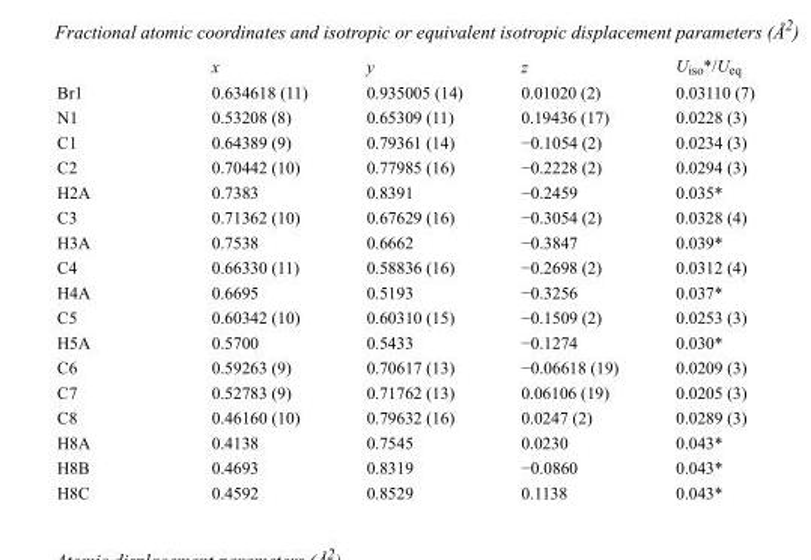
<table><thead><tr><td></td><td>x</td><td>y</td><td>z</td><td>U<sub>iso</sub>*/U<sub>eq</sub></td></tr></thead><tbody><tr><td>Br1</td><td>0.634618 (11)</td><td>0.935005 (14)</td><td>0.01020 (2)</td><td>0.03110 (7)</td></tr><tr><td>N1</td><td>0.53208 (8)</td><td>0.65309 (11)</td><td>0.19436 (17)</td><td>0.0228 (3)</td></tr><tr><td>C1</td><td>0.64389 (9)</td><td>0.79361 (14)</td><td>−0.1054 (2)</td><td>0.0234 (3)</td></tr><tr><td>C2</td><td>0.70442 (10)</td><td>0.77985 (16)</td><td>−0.2228 (2)</td><td>0.0294 (3)</td></tr><tr><td>H2A</td><td>0.7383</td><td>0.8391</td><td>−0.2459</td><td>0.035*</td></tr><tr><td>C3</td><td>0.71362 (10)</td><td>0.67629 (16)</td><td>−0.3054 (2)</td><td>0.0328 (4)</td></tr><tr><td>H3A</td><td>0.7538</td><td>0.6662</td><td>−0.3847</td><td>0.039*</td></tr><tr><td>C4</td><td>0.66330 (11)</td><td>0.58836 (16)</td><td>−0.2698 (2)</td><td>0.0312 (4)</td></tr><tr><td>H4A</td><td>0.6695</td><td>0.5193</td><td>−0.3256</td><td>0.037*</td></tr><tr><td>C5</td><td>0.60342 (10)</td><td>0.60310 (15)</td><td>−0.1509 (2)</td><td>0.0253 (3)</td></tr><tr><td>H5A</td><td>0.5700</td><td>0.5433</td><td>−0.1274</td><td>0.030*</td></tr><tr><td>C6</td><td>0.59263 (9)</td><td>0.70617 (13)</td><td>−0.06618 (19)</td><td>0.0209 (3)</td></tr><tr><td>C7</td><td>0.52783 (9)</td><td>0.71762 (13)</td><td>0.06106 (19)</td><td>0.0205 (3)</td></tr><tr><td>C8</td><td>0.46160 (10)</td><td>0.79632 (16)</td><td>0.0247 (2)</td><td>0.0289 (3)</td></tr><tr><td>H8A</td><td>0.4138</td><td>0.7545</td><td>0.0230</td><td>0.043*</td></tr><tr><td>H8B</td><td>0.4693</td><td>0.8319</td><td>−0.0860</td><td>0.043*</td></tr><tr><td>H8C</td><td>0.4592</td><td>0.8529</td><td>0.1138</td><td>0.043*</td></tr></tbody></table>